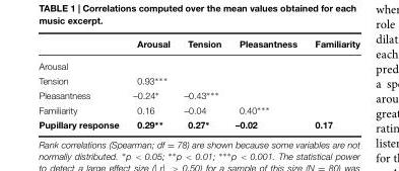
<table><thead><tr><td></td><td>Arousal</td><td>Tension</td><td>Pleasantness</td><td>Familiarity</td></tr></thead><tbody><tr><td colspan="5">Arousal</td></tr><tr><td>Tension</td><td>0.93∗∗∗</td><td></td><td></td><td></td></tr><tr><td>Pleasantness</td><td>–0.24∗</td><td>–0.43∗∗∗</td><td></td><td></td></tr><tr><td>Familiarity</td><td>0.16</td><td>–0.04</td><td>0.40∗∗∗</td><td></td></tr><tr><td>Pupillary response</td><td>0.29∗∗</td><td>0.27∗</td><td>–0.02</td><td>0.17</td></tr></tbody></table>